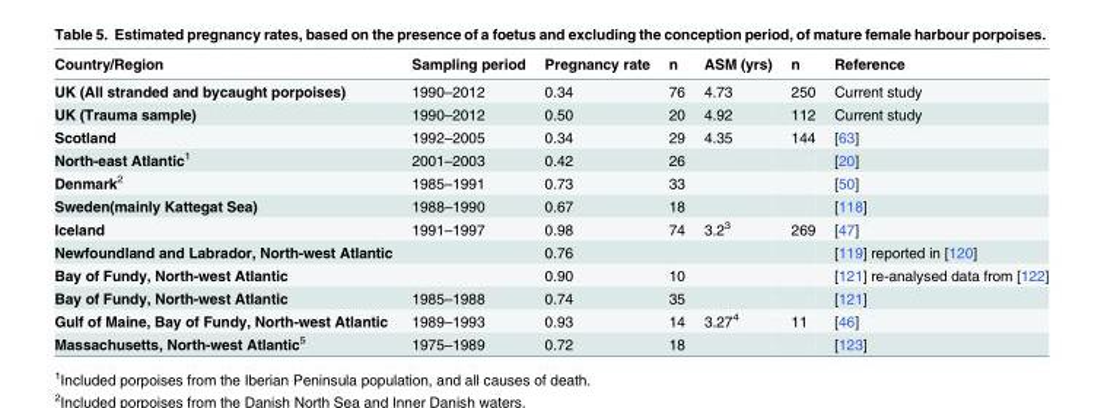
<table><thead><tr><td>Country/Region</td><td>Sampling period</td><td>Pregnancy rate</td><td>n</td><td>ASM (yrs)</td><td>n</td><td>Reference</td></tr></thead><tbody><tr><td>UK (All stranded and bycaught porpoises)</td><td>1990–2012</td><td>0.34</td><td>76</td><td>4.73</td><td>250</td><td>Current study</td></tr><tr><td>UK (Trauma sample)</td><td>1990–2012</td><td>0.50</td><td>20</td><td>4.92</td><td>112</td><td>Current study</td></tr><tr><td>Scotland</td><td>1992–2005</td><td>0.34</td><td>29</td><td>4.35</td><td>144</td><td>[63]</td></tr><tr><td>North-east Atlantic<sup>1</sup></td><td>2001–2003</td><td>0.42</td><td>26</td><td></td><td></td><td>[20]</td></tr><tr><td>Denmark<sup>2</sup></td><td>1985–1991</td><td>0.73</td><td>33</td><td></td><td></td><td>[50]</td></tr><tr><td>Sweden(mainly Kattegat Sea)</td><td>1988–1990</td><td>0.67</td><td>18</td><td></td><td></td><td>[118]</td></tr><tr><td>Iceland</td><td>1991–1997</td><td>0.98</td><td>74</td><td>3.2<sup>3</sup></td><td>269</td><td>[47]</td></tr><tr><td>Newfoundland and Labrador, North-west Atlantic</td><td></td><td>0.76</td><td></td><td></td><td></td><td>[119] reported in [120]</td></tr><tr><td>Bay of Fundy, North-west Atlantic</td><td></td><td>0.90</td><td>10</td><td></td><td></td><td>[121] re-analysed data from [122]</td></tr><tr><td>Bay of Fundy, North-west Atlantic</td><td>1985–1988</td><td>0.74</td><td>35</td><td></td><td></td><td>[121]</td></tr><tr><td>Gulf of Maine, Bay of Fundy, North-west Atlantic</td><td>1989–1993</td><td>0.93</td><td>14</td><td>3.27<sup>4</sup></td><td>11</td><td>[46]</td></tr><tr><td>Massachusetts, North-west Atlantic<sup>5</sup></td><td>1975–1989</td><td>0.72</td><td>18</td><td></td><td></td><td>[123]</td></tr></tbody></table>